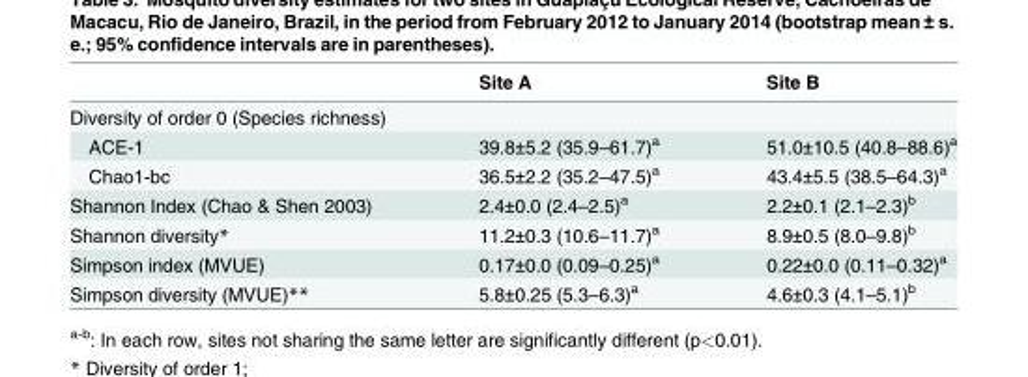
<table><thead><tr><td></td><td>Site A</td><td>Site B</td></tr></thead><tbody><tr><td colspan="3">Diversity of order 0 (Species richness)</td></tr><tr><td>ACE-1</td><td>39.8±5.2 (35.9–61.7)<sup>a</sup></td><td>51.0±10.5 (40.8–88.6)<sup>a</sup></td></tr><tr><td>Chao1-bc</td><td>36.5±2.2 (35.2–47.5)<sup>a</sup></td><td>43.4±5.5 (38.5–64.3)<sup>a</sup></td></tr><tr><td>Shannon Index (Chao &amp; Shen 2003)</td><td>2.4±0.0 (2.4–2.5)<sup>a</sup></td><td>2.2±0.1 (2.1–2.3)<sup>b</sup></td></tr><tr><td>Shannon diversity*</td><td>11.2±0.3 (10.6–11.7)<sup>a</sup></td><td>8.9±0.5 (8.0–9.8)<sup>b</sup></td></tr><tr><td>Simpson index (MVUE)</td><td>0.17±0.0 (0.09–0.25)<sup>a</sup></td><td>0.22±0.0 (0.11–0.32)<sup>a</sup></td></tr><tr><td>Simpson diversity (MVUE)**</td><td>5.8±0.25 (5.3–6.3)<sup>a</sup></td><td>4.6±0.3 (4.1–5.1)<sup>b</sup></td></tr></tbody></table>